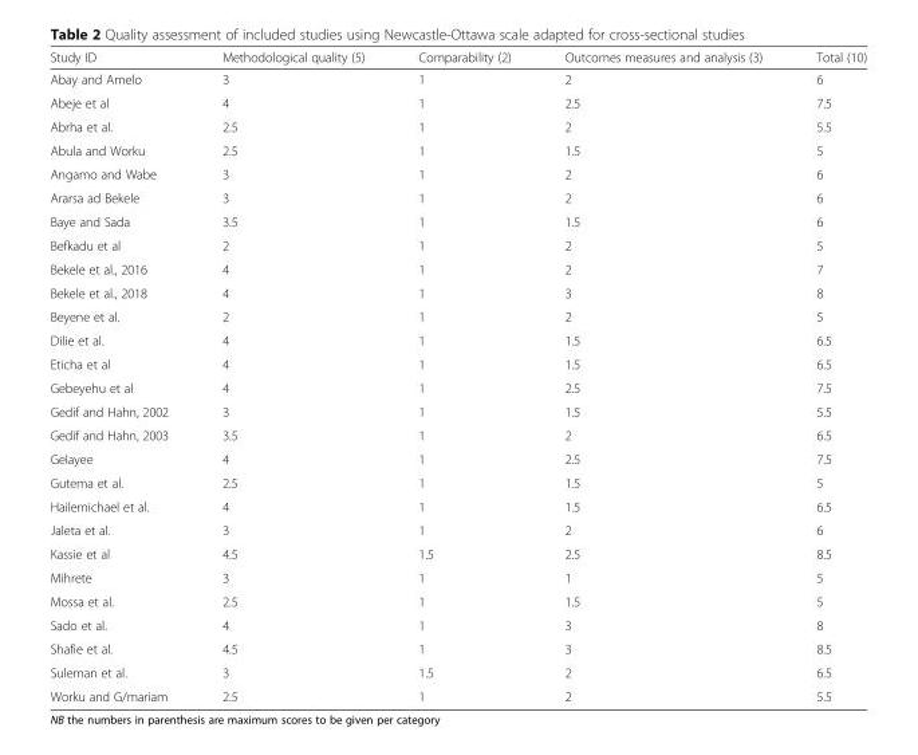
<table><thead><tr><td>Study ID</td><td>Methodological quality (5)</td><td>Comparability (2)</td><td>Outcomes measures and analysis (3)</td><td>Total (10)</td></tr></thead><tbody><tr><td>Abay and Amelo</td><td>3</td><td>1</td><td>2</td><td>6</td></tr><tr><td>Abeje et al</td><td>4</td><td>1</td><td>2.5</td><td>7.5</td></tr><tr><td>Abrha et al.</td><td>2.5</td><td>1</td><td>2</td><td>5.5</td></tr><tr><td>Abula and Worku</td><td>2.5</td><td>1</td><td>1.5</td><td>5</td></tr><tr><td>Angamo and Wabe</td><td>3</td><td>1</td><td>2</td><td>6</td></tr><tr><td>Ararsa ad Bekele</td><td>3</td><td>1</td><td>2</td><td>6</td></tr><tr><td>Baye and Sada</td><td>3.5</td><td>1</td><td>1.5</td><td>6</td></tr><tr><td>Befkadu et al</td><td>2</td><td>1</td><td>2</td><td>5</td></tr><tr><td>Bekele et al., 2016</td><td>4</td><td>1</td><td>2</td><td>7</td></tr><tr><td>Bekele et al., 2018</td><td>4</td><td>1</td><td>3</td><td>8</td></tr><tr><td>Beyene et al.</td><td>2</td><td>1</td><td>2</td><td>5</td></tr><tr><td>Dilie et al.</td><td>4</td><td>1</td><td>1.5</td><td>6.5</td></tr><tr><td>Eticha et al</td><td>4</td><td>1</td><td>1.5</td><td>6.5</td></tr><tr><td>Gebeyehu et al</td><td>4</td><td>1</td><td>2.5</td><td>7.5</td></tr><tr><td>Gedif and Hahn, 2002</td><td>3</td><td>1</td><td>1.5</td><td>5.5</td></tr><tr><td>Gedif and Hahn, 2003</td><td>3.5</td><td>1</td><td>2</td><td>6.5</td></tr><tr><td>Gelayee</td><td>4</td><td>1</td><td>2.5</td><td>7.5</td></tr><tr><td>Gutema et al.</td><td>2.5</td><td>1</td><td>1.5</td><td>5</td></tr><tr><td>Hailemichael et al.</td><td>4</td><td>1</td><td>1.5</td><td>6.5</td></tr><tr><td>Jaleta et al.</td><td>3</td><td>1</td><td>2</td><td>6</td></tr><tr><td>Kassie et al</td><td>4.5</td><td>1.5</td><td>2.5</td><td>8.5</td></tr><tr><td>Mihrete</td><td>3</td><td>1</td><td>1</td><td>5</td></tr><tr><td>Mossa et al.</td><td>2.5</td><td>1</td><td>1.5</td><td>5</td></tr><tr><td>Sado et al.</td><td>4</td><td>1</td><td>3</td><td>8</td></tr><tr><td>Shafie et al.</td><td>4.5</td><td>1</td><td>3</td><td>8.5</td></tr><tr><td>Suleman et al.</td><td>3</td><td>1.5</td><td>2</td><td>6.5</td></tr><tr><td>Worku and G/mariam</td><td>2.5</td><td>1</td><td>2</td><td>5.5</td></tr></tbody></table>